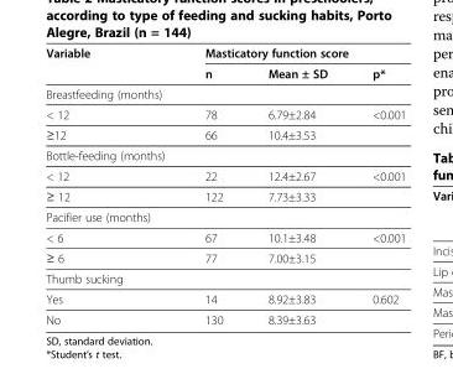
<table><thead><tr><td rowspan="2">Variable</td><td colspan="3">Masticatory function score</td></tr><tr><td>n</td><td>Mean ± SD</td><td>p*</td></tr></thead><tbody><tr><td colspan="4">Breastfeeding (months)</td></tr><tr><td>&lt; 12</td><td>78</td><td>6.79±2.84</td><td>&lt;0.001</td></tr><tr><td>≥12</td><td>66</td><td>10.4±3.53</td><td></td></tr><tr><td colspan="4">Bottle-feeding (months)</td></tr><tr><td>&lt; 12</td><td>22</td><td>12.4±2.67</td><td>&lt;0.001</td></tr><tr><td>≥ 12</td><td>122</td><td>7.73±3.33</td><td></td></tr><tr><td colspan="4">Pacifier use (months)</td></tr><tr><td>&lt; 6</td><td>67</td><td>10.1±3.48</td><td>&lt;0.001</td></tr><tr><td>≥ 6</td><td>77</td><td>7.00±3.15</td><td></td></tr><tr><td colspan="4">Thumb sucking</td></tr><tr><td>Yes</td><td>14</td><td>8.92±3.83</td><td>0.602</td></tr><tr><td>No</td><td>130</td><td>8.39±3.63</td><td></td></tr></tbody></table>